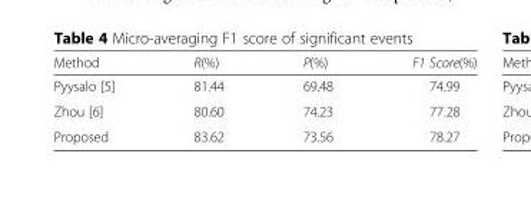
<table><thead><tr><td>Method</td><td>R(%)</td><td>P(%)</td><td>F1 Score(%)</td></tr></thead><tbody><tr><td>Pyysalo [5]</td><td>81.44</td><td>69.48</td><td>74.99</td></tr><tr><td>Zhou [6]</td><td>80.60</td><td>74.23</td><td>77.28</td></tr><tr><td>Proposed</td><td>83.62</td><td>73.56</td><td>78.27</td></tr></tbody></table>